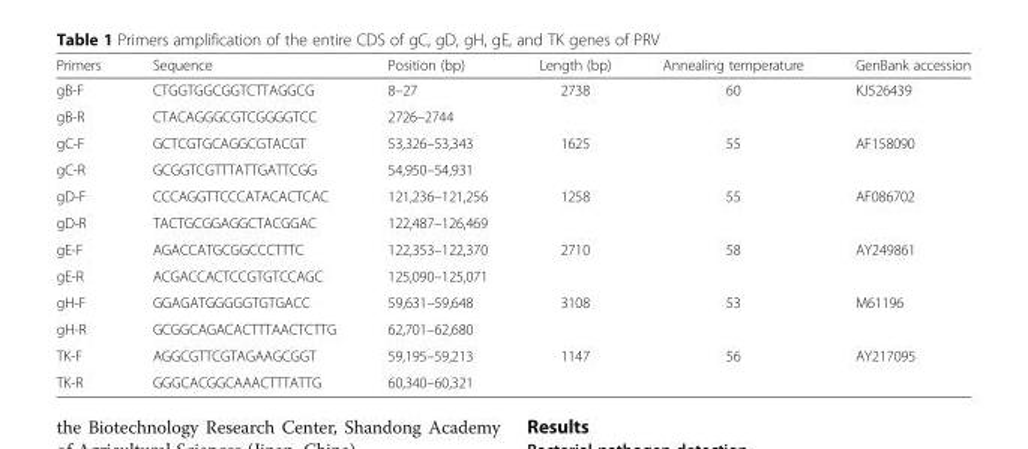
<table><thead><tr><td>Primers</td><td>Sequence</td><td>Position (bp)</td><td>Length (bp)</td><td>Annealing temperature</td><td>GenBank accession</td></tr></thead><tbody><tr><td>gB-F</td><td>CTGGTGGCGGTCTTAGGCG</td><td>8–27</td><td rowspan="2">2738</td><td rowspan="2">60</td><td rowspan="2">KJ526439</td></tr><tr><td>gB-R</td><td>CTACAGGGCGTCGGGGTCC</td><td>2726–2744</td></tr><tr><td>gC-F</td><td>GCTCGTGCAGGCGTACGT</td><td>53,326–53,343</td><td rowspan="2">1625</td><td rowspan="2">55</td><td rowspan="2">AF158090</td></tr><tr><td>gC-R</td><td>GCGGTCGTTTATTGATTCGG</td><td>54,950–54,931</td></tr><tr><td>gD-F</td><td>CCCAGGTTCCCATACACTCAC</td><td>121,236–121,256</td><td rowspan="2">1258</td><td rowspan="2">55</td><td rowspan="2">AF086702</td></tr><tr><td>gD-R</td><td>TACTGCGGAGGCTACGGAC</td><td>122,487–126,469</td></tr><tr><td>gE-F</td><td>AGACCATGCGGCCCTTTC</td><td>122,353–122,370</td><td rowspan="2">2710</td><td rowspan="2">58</td><td rowspan="2">AY249861</td></tr><tr><td>gE-R</td><td>ACGACCACTCCGTGTCCAGC</td><td>125,090–125,071</td></tr><tr><td>gH-F</td><td>GGAGATGGGGGTGTGACC</td><td>59,631–59,648</td><td rowspan="2">3108</td><td rowspan="2">53</td><td rowspan="2">M61196</td></tr><tr><td>gH-R</td><td>GCGGCAGACACTTTAACTCTTG</td><td>62,701–62,680</td></tr><tr><td>TK-F</td><td>AGGCGTTCGTAGAAGCGGT</td><td>59,195–59,213</td><td rowspan="2">1147</td><td rowspan="2">56</td><td rowspan="2">AY217095</td></tr><tr><td>TK-R</td><td>GGGCACGGCAAACTTTATTG</td><td>60,340–60,321</td></tr></tbody></table>